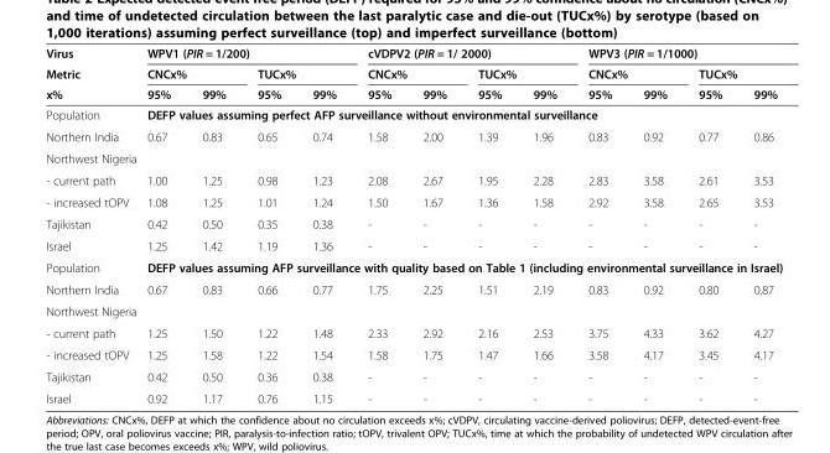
<table><thead><tr><td rowspan="3">Virus Metric x%</td><td colspan="4">WPV1 (PIR = 1/200)</td><td colspan="4">cVDPV2 (PIR = 1/ 2000)</td><td colspan="4">WPV3 (PIR = 1/1000)</td></tr><tr><td colspan="2">CNCx%</td><td colspan="2">TUCx%</td><td colspan="2">CNCx%</td><td colspan="2">TUCx%</td><td colspan="2">CNCx%</td><td colspan="2">TUCx%</td></tr><tr><td>95%</td><td>99%</td><td>95%</td><td>99%</td><td>95%</td><td>99%</td><td>95%</td><td>99%</td><td>95%</td><td>99%</td><td>95%</td><td>99%</td></tr></thead><tbody><tr><td>Population</td><td colspan="12">DEFP values assuming perfect AFP surveillance without environmental surveillance</td></tr><tr><td>Northern India</td><td>0.67</td><td>0.83</td><td>0.65</td><td>0.74</td><td>1.58</td><td>2.00</td><td>1.39</td><td>1.96</td><td>0.83</td><td>0.92</td><td>0.77</td><td>0.86</td></tr><tr><td colspan="13">Northwest Nigeria</td></tr><tr><td>- current path</td><td>1.00</td><td>1.25</td><td>0.98</td><td>1.23</td><td>2.08</td><td>2.67</td><td>1.95</td><td>2.28</td><td>2.83</td><td>3.58</td><td>2.61</td><td>3.53</td></tr><tr><td>- increased tOPV</td><td>1.08</td><td>1.25</td><td>1.01</td><td>1.24</td><td>1.50</td><td>1.67</td><td>1.36</td><td>1.58</td><td>2.92</td><td>3.58</td><td>2.65</td><td>3.53</td></tr><tr><td>Tajikistan</td><td>0.42</td><td>0.50</td><td>0.35</td><td>0.38</td><td>-</td><td>-</td><td>-</td><td>-</td><td>-</td><td>-</td><td>-</td><td>-</td></tr><tr><td>Israel</td><td>1.25</td><td>1.42</td><td>1.19</td><td>1.36</td><td>-</td><td>-</td><td>-</td><td>-</td><td>-</td><td>-</td><td>-</td><td>-</td></tr><tr><td>Population</td><td colspan="12">DEFP values assuming AFP surveillance with quality based on Table 1 (including environmental surveillance in Israel)</td></tr><tr><td>Northern India</td><td>0.67</td><td>0.83</td><td>0.66</td><td>0.77</td><td>1.75</td><td>2.25</td><td>1.51</td><td>2.19</td><td>0.83</td><td>0.92</td><td>0.80</td><td>0.87</td></tr><tr><td colspan="13">Northwest Nigeria</td></tr><tr><td>- current path</td><td>1.25</td><td>1.50</td><td>1.22</td><td>1.48</td><td>2.33</td><td>2.92</td><td>2.16</td><td>2.53</td><td>3.75</td><td>4.33</td><td>3.62</td><td>4.27</td></tr><tr><td>- increased tOPV</td><td>1.25</td><td>1.58</td><td>1.22</td><td>1.54</td><td>1.58</td><td>1.75</td><td>1.47</td><td>1.66</td><td>3.58</td><td>4.17</td><td>3.45</td><td>4.17</td></tr><tr><td>Tajikistan</td><td>0.42</td><td>0.50</td><td>0.36</td><td>0.38</td><td>-</td><td>-</td><td>-</td><td>-</td><td>-</td><td>-</td><td>-</td><td>-</td></tr><tr><td>Israel</td><td>0.92</td><td>1.17</td><td>0.76</td><td>1.15</td><td>-</td><td>-</td><td>-</td><td>-</td><td>-</td><td>-</td><td>-</td><td>-</td></tr></tbody></table>